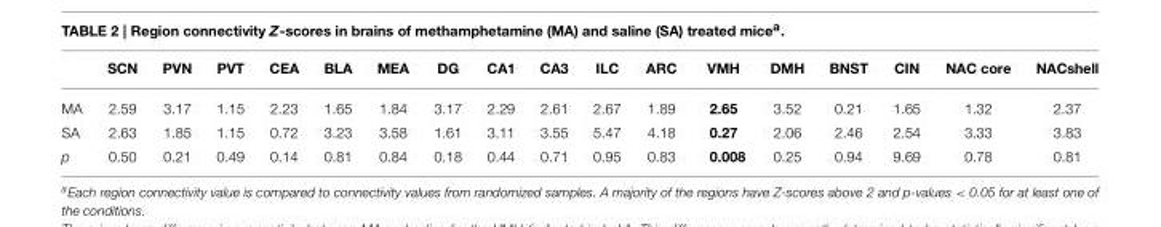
<table><thead><tr><td></td><td>SCN</td><td>PVN</td><td>PVT</td><td>CEA</td><td>BLA</td><td>MEA</td><td>DG</td><td>CA1</td><td>CA3</td><td>ILC</td><td>ARC</td><td>VMH</td><td>DMH</td><td>BNST</td><td>CIN</td><td>NAC core</td><td>NACshell</td></tr></thead><tbody><tr><td>MA</td><td>2.59</td><td>3.17</td><td>1.15</td><td>2.23</td><td>1.65</td><td>1.84</td><td>3.17</td><td>2.29</td><td>2.61</td><td>2.67</td><td>1.89</td><td>2.65</td><td>3.52</td><td>0.21</td><td>1.65</td><td>1.32</td><td>2.37</td></tr><tr><td>SA</td><td>2.63</td><td>1.85</td><td>1.15</td><td>0.72</td><td>3.23</td><td>3.58</td><td>1.61</td><td>3.11</td><td>3.55</td><td>5.47</td><td>4.18</td><td>0.27</td><td>2.06</td><td>2.46</td><td>2.54</td><td>3.33</td><td>3.83</td></tr><tr><td>p</td><td>0.50</td><td>0.21</td><td>0.49</td><td>0.14</td><td>0.81</td><td>0.84</td><td>0.18</td><td>0.44</td><td>0.71</td><td>0.95</td><td>0.83</td><td>0.008</td><td>0.25</td><td>0.94</td><td>9.69</td><td>0.78</td><td>0.81</td></tr></tbody></table>